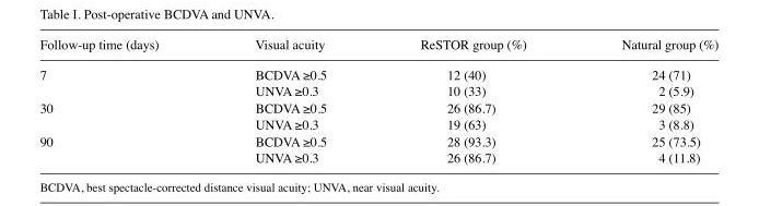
<table><thead><tr><td>Follow-up time (days)</td><td>Visual acuity</td><td>ReSTOR group (%)</td><td>Natural group (%)</td></tr></thead><tbody><tr><td rowspan="2">7</td><td>BCDVA ≥0.5</td><td>12 (40)</td><td>24 (71)</td></tr><tr><td>UNVA ≥0.3</td><td>10 (33)</td><td>2 (5.9)</td></tr><tr><td rowspan="2">30</td><td>BCDVA ≥0.5</td><td>26 (86.7)</td><td>29 (85)</td></tr><tr><td>UNVA ≥0.3</td><td>19 (63)</td><td>3 (8.8)</td></tr><tr><td rowspan="2">90</td><td>BCDVA ≥0.5</td><td>28 (93.3)</td><td>25 (73.5)</td></tr><tr><td>UNVA ≥0.3</td><td>26 (86.7)</td><td>4 (11.8)</td></tr></tbody></table>